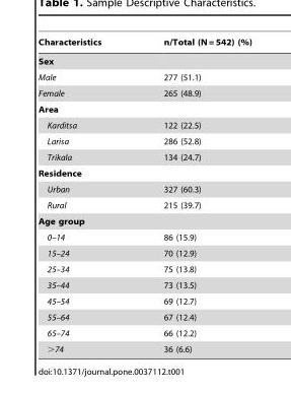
<table><thead><tr><td>Characteristics</td><td>n/Total (N = 542) (%)</td></tr></thead><tbody><tr><td colspan="2">Sex</td></tr><tr><td>Male</td><td>277 (51.1)</td></tr><tr><td>Female</td><td>265 (48.9)</td></tr><tr><td colspan="2">Area</td></tr><tr><td>Karditsa</td><td>122 (22.5)</td></tr><tr><td>Larisa</td><td>286 (52.8)</td></tr><tr><td>Trikala</td><td>134 (24.7)</td></tr><tr><td colspan="2">Residence</td></tr><tr><td>Urban</td><td>327 (60.3)</td></tr><tr><td>Rural</td><td>215 (39.7)</td></tr><tr><td colspan="2">Age group</td></tr><tr><td>0–14</td><td>86 (15.9)</td></tr><tr><td>15–24</td><td>70 (12.9)</td></tr><tr><td>25–34</td><td>75 (13.8)</td></tr><tr><td>35–44</td><td>73 (13.5)</td></tr><tr><td>45–54</td><td>69 (12.7)</td></tr><tr><td>55–64</td><td>67 (12.4)</td></tr><tr><td>65–74</td><td>66 (12.2)</td></tr><tr><td>&gt;74</td><td>36 (6.6)</td></tr></tbody></table>